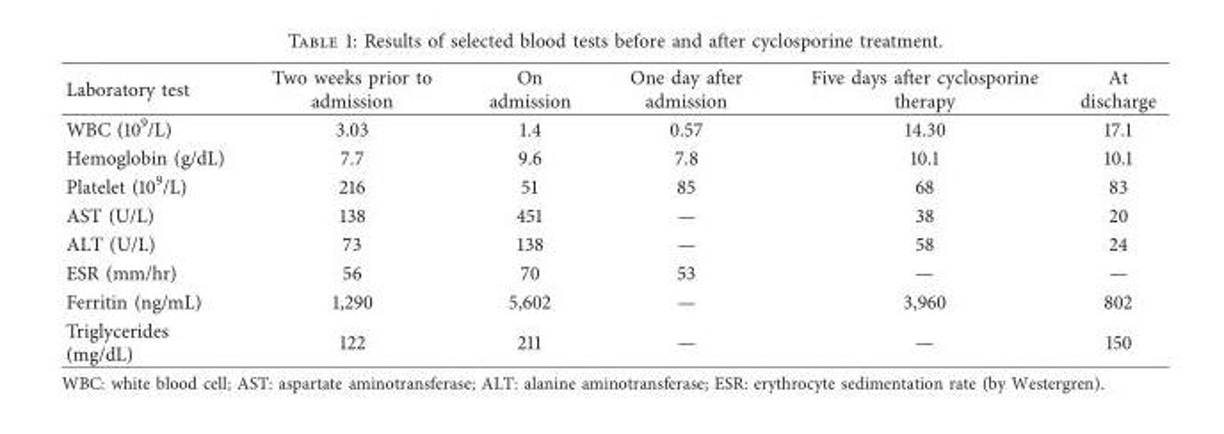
<table><thead><tr><td>Laboratory test</td><td>Two weeks prior to admission</td><td>On admission</td><td>One day after admission</td><td>Five days after cyclosporine therapy</td><td>At discharge</td></tr></thead><tbody><tr><td>WBC (10<sup>9</sup>/L)</td><td>3.03</td><td>1.4</td><td>0.57</td><td>14.30</td><td>17.1</td></tr><tr><td>Hemoglobin (g/dL)</td><td>7.7</td><td>9.6</td><td>7.8</td><td>10.1</td><td>10.1</td></tr><tr><td>Platelet (10<sup>9</sup>/L)</td><td>216</td><td>51</td><td>85</td><td>68</td><td>83</td></tr><tr><td>AST (U/L)</td><td>138</td><td>451</td><td>—</td><td>38</td><td>20</td></tr><tr><td>ALT (U/L)</td><td>73</td><td>138</td><td>—</td><td>58</td><td>24</td></tr><tr><td>ESR (mm/hr)</td><td>56</td><td>70</td><td>53</td><td>—</td><td>—</td></tr><tr><td>Ferritin (ng/mL)</td><td>1,290</td><td>5,602</td><td>—</td><td>3,960</td><td>802</td></tr><tr><td>Triglycerides (mg/dL)</td><td>122</td><td>211</td><td>—</td><td>—</td><td>150</td></tr></tbody></table>